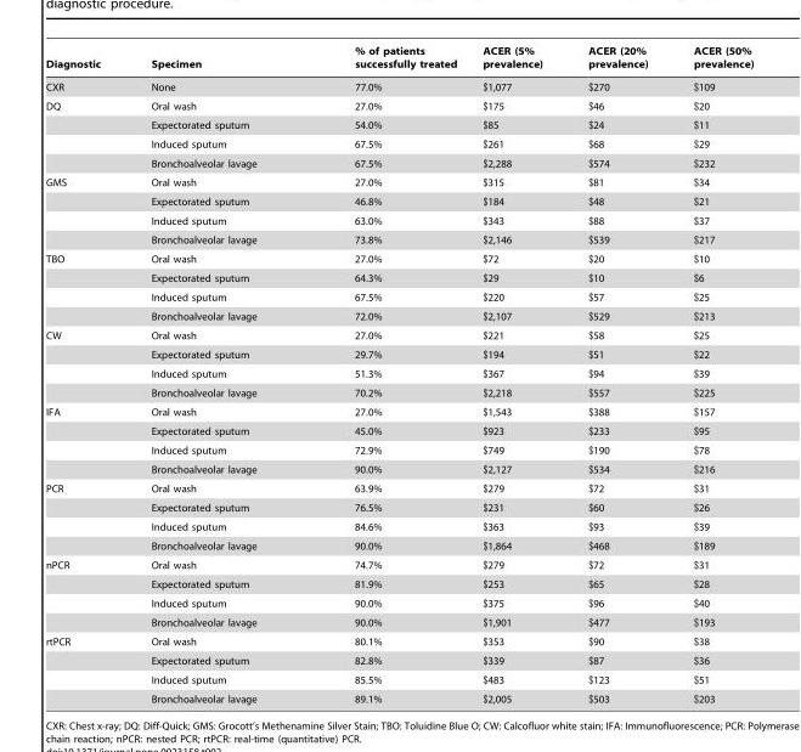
<table><thead><tr><td>Diagnostic</td><td>Specimen</td><td>% of patients successfully treated</td><td>ACER (5% prevalence)</td><td>ACER (20% prevalence)</td><td>ACER (50% prevalence)</td></tr></thead><tbody><tr><td>CXR</td><td>None</td><td>77.0%</td><td>$1,077</td><td>$270</td><td>$109</td></tr><tr><td rowspan="4">DQ</td><td>Oral wash</td><td>27.0%</td><td>$175</td><td>$46</td><td>$20</td></tr><tr><td>Expectorated sputum</td><td>54.0%</td><td>$85</td><td>$24</td><td>$11</td></tr><tr><td>Induced sputum</td><td>67.5%</td><td>$261</td><td>$68</td><td>$29</td></tr><tr><td>Bronchoalveolar lavage</td><td>67.5%</td><td>$2,288</td><td>$574</td><td>$232</td></tr><tr><td rowspan="4">GMS</td><td>Oral wash</td><td>27.0%</td><td>$315</td><td>$81</td><td>$34</td></tr><tr><td>Expectorated sputum</td><td>46.8%</td><td>$184</td><td>$48</td><td>$21</td></tr><tr><td>Induced sputum</td><td>63.0%</td><td>$343</td><td>$88</td><td>$37</td></tr><tr><td>Bronchoalveolar lavage</td><td>73.8%</td><td>$2,146</td><td>$539</td><td>$217</td></tr><tr><td rowspan="4">TBO</td><td>Oral wash</td><td>27.0%</td><td>$72</td><td>$20</td><td>$10</td></tr><tr><td>Expectorated sputum</td><td>64.3%</td><td>$29</td><td>$10</td><td>$6</td></tr><tr><td>Induced sputum</td><td>67.5%</td><td>$220</td><td>$57</td><td>$25</td></tr><tr><td>Bronchoalveolar lavage</td><td>72.0%</td><td>$2,107</td><td>$529</td><td>$213</td></tr><tr><td rowspan="4">CW</td><td>Oral wash</td><td>27.0%</td><td>$221</td><td>$58</td><td>$25</td></tr><tr><td>Expectorated sputum</td><td>29.7%</td><td>$194</td><td>$51</td><td>$22</td></tr><tr><td>Induced sputum</td><td>51.3%</td><td>$367</td><td>$94</td><td>$39</td></tr><tr><td>Bronchoalveolar lavage</td><td>70.2%</td><td>$2,218</td><td>$557</td><td>$225</td></tr><tr><td rowspan="4">IFA</td><td>Oral wash</td><td>27.0%</td><td>$1,543</td><td>$388</td><td>$157</td></tr><tr><td>Expectorated sputum</td><td>45.0%</td><td>$923</td><td>$233</td><td>$95</td></tr><tr><td>Induced sputum</td><td>72.9%</td><td>$749</td><td>$190</td><td>$78</td></tr><tr><td>Bronchoalveolar lavage</td><td>90.0%</td><td>$2,127</td><td>$534</td><td>$216</td></tr><tr><td rowspan="4">PCR</td><td>Oral wash</td><td>63.9%</td><td>$279</td><td>$72</td><td>$31</td></tr><tr><td>Expectorated sputum</td><td>76.5%</td><td>$231</td><td>$60</td><td>$26</td></tr><tr><td>Induced sputum</td><td>84.6%</td><td>$363</td><td>$93</td><td>$39</td></tr><tr><td>Bronchoalveolar lavage</td><td>90.0%</td><td>$1,864</td><td>$468</td><td>$189</td></tr><tr><td rowspan="4">nPCR</td><td>Oral wash</td><td>74.7%</td><td>$279</td><td>$72</td><td>$31</td></tr><tr><td>Expectorated sputum</td><td>81.9%</td><td>$253</td><td>$65</td><td>$28</td></tr><tr><td>Induced sputum</td><td>90.0%</td><td>$375</td><td>$96</td><td>$40</td></tr><tr><td>Bronchoalveolar lavage</td><td>90.0%</td><td>$1,901</td><td>$477</td><td>$193</td></tr><tr><td rowspan="4">rtPCR</td><td>Oral wash</td><td>80.1%</td><td>$353</td><td>$90</td><td>$38</td></tr><tr><td>Expectorated sputum</td><td>82.8%</td><td>$339</td><td>$87</td><td>$36</td></tr><tr><td>Induced sputum</td><td>85.5%</td><td>$483</td><td>$123</td><td>$51</td></tr><tr><td>Bronchoalveolar lavage</td><td>89.1%</td><td>$2,005</td><td>$503</td><td>$203</td></tr></tbody></table>